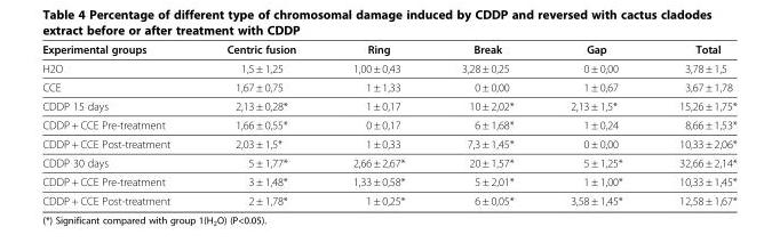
<table><thead><tr><td>Experimental groups</td><td>Centric fusion</td><td>Ring</td><td>Break</td><td>Gap</td><td>Total</td></tr></thead><tbody><tr><td>H2O</td><td>1,5 ± 1,25</td><td>1,00 ± 0,43</td><td>3,28 ± 0,25</td><td>0 ± 0,00</td><td>3,78 ± 1,5</td></tr><tr><td>CCE</td><td>1,67 ± 0,75</td><td>1 ± 1,33</td><td>0 ± 0,00</td><td>1 ± 0,67</td><td>3,67 ± 1,78</td></tr><tr><td>CDDP 15 days</td><td>2,13 ± 0,28*</td><td>1 ± 0,17</td><td>10 ± 2,02*</td><td>2,13 ± 1,5*</td><td>15,26 ± 1,75*</td></tr><tr><td>CDDP + CCE Pre-treatment</td><td>1,66 ± 0,55*</td><td>0 ± 0,17</td><td>6 ± 1,68*</td><td>1 ± 0,24</td><td>8,66 ± 1,53*</td></tr><tr><td>CDDP + CCE Post-treatment</td><td>2,03 ± 1,5*</td><td>1 ± 0,33</td><td>7,3 ± 1,45*</td><td>0 ± 0,00</td><td>10,33 ± 2,06*</td></tr><tr><td>CDDP 30 days</td><td>5 ± 1,77*</td><td>2,66 ± 2,67*</td><td>20 ± 1,57*</td><td>5 ± 1,25*</td><td>32,66 ± 2,14*</td></tr><tr><td>CDDP + CCE Pre-treatment</td><td>3 ± 1,48*</td><td>1,33 ± 0,58*</td><td>5 ± 2,01*</td><td>1 ± 1,00*</td><td>10,33 ± 1,45*</td></tr><tr><td>CDDP + CCE Post-treatment</td><td>2 ± 1,78*</td><td>1 ± 0,25*</td><td>6 ± 0,05*</td><td>3,58 ± 1,45*</td><td>12,58 ± 1,67*</td></tr></tbody></table>